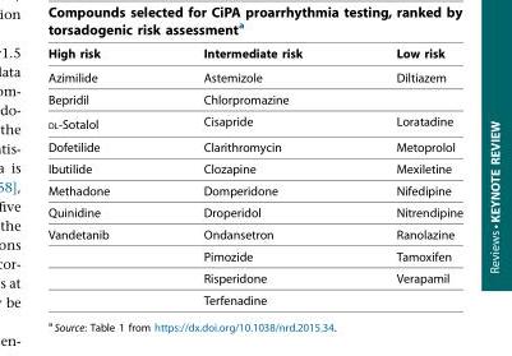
<table><thead><tr><td>High risk</td><td>Intermediate risk</td><td>Low risk</td></tr></thead><tbody><tr><td>Azimilide</td><td>Astemizole</td><td>Diltiazem</td></tr><tr><td>Bepridil</td><td>Chlorpromazine</td><td></td></tr><tr><td>DL-Sotalol</td><td>Cisapride</td><td>Loratadine</td></tr><tr><td>Dofetilide</td><td>Clarithromycin</td><td>Metoprolol</td></tr><tr><td>Ibutilide</td><td>Clozapine</td><td>Mexiletine</td></tr><tr><td>Methadone</td><td>Domperidone</td><td>Nifedipine</td></tr><tr><td>Quinidine</td><td>Droperidol</td><td>Nitrendipine</td></tr><tr><td rowspan="4">Vandetanib</td><td>Ondansetron</td><td>Ranolazine</td></tr><tr><td>Pimozide</td><td>Tamoxifen</td></tr><tr><td>Risperidone</td><td>Verapamil</td></tr><tr><td>Terfenadine</td><td></td></tr></tbody></table>